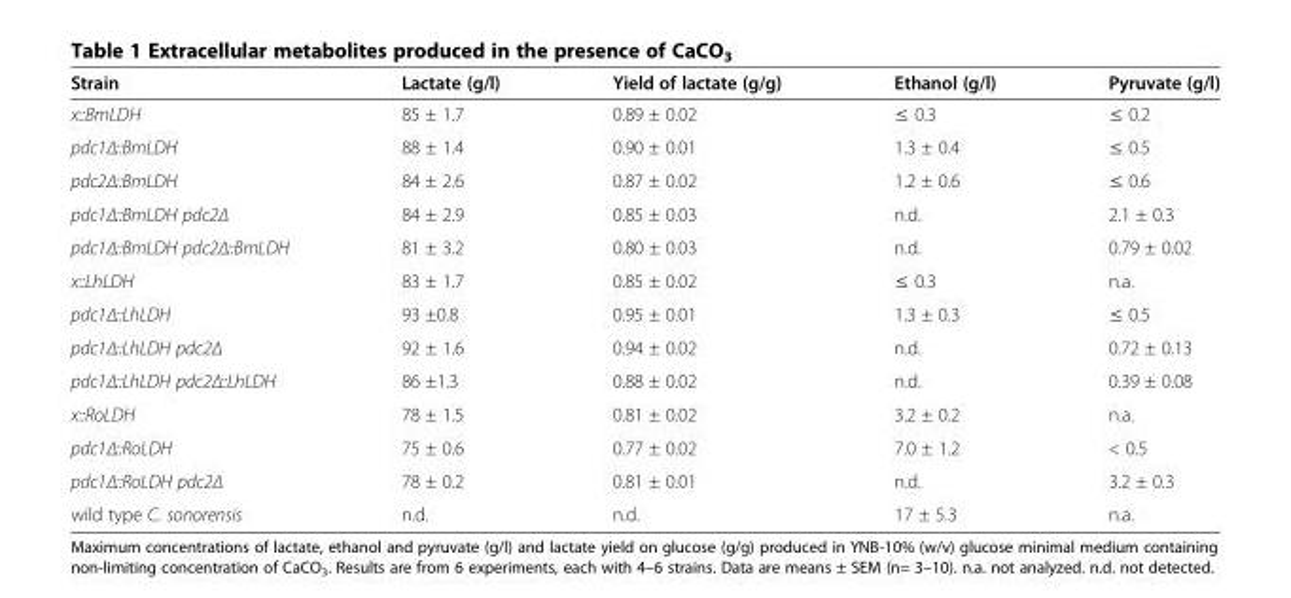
<table><thead><tr><td>Strain</td><td>Lactate (g/l)</td><td>Yield of lactate (g/g)</td><td>Ethanol (g/l)</td><td>Pyruvate (g/l)</td></tr></thead><tbody><tr><td>x::BmLDH</td><td>85 ± 1.7</td><td>0.89 ± 0.02</td><td>≤ 0.3</td><td>≤ 0.2</td></tr><tr><td>pdc1Δ::BmLDH</td><td>88 ± 1.4</td><td>0.90 ± 0.01</td><td>1.3 ± 0.4</td><td>≤ 0.5</td></tr><tr><td>pdc2Δ::BmLDH</td><td>84 ± 2.6</td><td>0.87 ± 0.02</td><td>1.2 ± 0.6</td><td>≤ 0.6</td></tr><tr><td>pdc1Δ::BmLDH pdc2Δ</td><td>84 ± 2.9</td><td>0.85 ± 0.03</td><td>n.d.</td><td>2.1 ± 0.3</td></tr><tr><td>pdc1Δ::BmLDH pdc2Δ::BmLDH</td><td>81 ± 3.2</td><td>0.80 ± 0.03</td><td>n.d.</td><td>0.79 ± 0.02</td></tr><tr><td>x::LhLDH</td><td>83 ± 1.7</td><td>0.85 ± 0.02</td><td>≤ 0.3</td><td>n.a.</td></tr><tr><td>pdc1Δ::LhLDH</td><td>93 ±0.8</td><td>0.95 ± 0.01</td><td>1.3 ± 0.3</td><td>≤ 0.5</td></tr><tr><td>pdc1Δ::LhLDH pdc2Δ</td><td>92 ± 1.6</td><td>0.94 ± 0.02</td><td>n.d.</td><td>0.72 ± 0.13</td></tr><tr><td>pdc1Δ::LhLDH pdc2Δ::LhLDH</td><td>86 ±1.3</td><td>0.88 ± 0.02</td><td>n.d.</td><td>0.39 ± 0.08</td></tr><tr><td>x::RoLDH</td><td>78 ± 1.5</td><td>0.81 ± 0.02</td><td>3.2 ± 0.2</td><td>n.a.</td></tr><tr><td>pdc1Δ::RoLDH</td><td>75 ± 0.6</td><td>0.77 ± 0.02</td><td>7.0 ± 1.2</td><td>&lt; 0.5</td></tr><tr><td>pdc1Δ::RoLDH pdc2Δ</td><td>78 ± 0.2</td><td>0.81 ± 0.01</td><td>n.d.</td><td>3.2 ± 0.3</td></tr><tr><td>wild type C. sonorensis</td><td>n.d.</td><td>n.d.</td><td>17 ± 5.3</td><td>n.a.</td></tr></tbody></table>